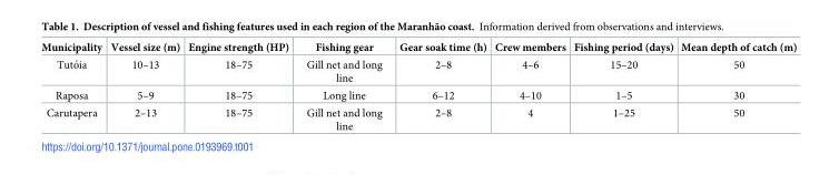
<table><thead><tr><td>Municipality</td><td>Vessel size (m)</td><td>Engine strength (HP)</td><td>Fishing gear</td><td>Gear soak time (h)</td><td>Crew members</td><td>Fishing period (days)</td><td>Mean depth of catch (m)</td></tr></thead><tbody><tr><td>Tuto´ia</td><td>10–13</td><td>18–75</td><td>Gill net and long line</td><td>2–8</td><td>4–6</td><td>15–20</td><td>50</td></tr><tr><td>Raposa</td><td>5–9</td><td>18–75</td><td>Long line</td><td>6–12</td><td>4–10</td><td>1–5</td><td>30</td></tr><tr><td>Carutapera</td><td>2–13</td><td>18–75</td><td>Gill net and long line</td><td>2–8</td><td>4</td><td>1–25</td><td>50</td></tr></tbody></table>